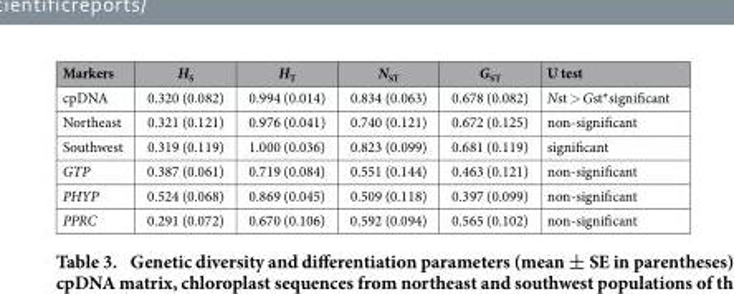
<table><thead><tr><td>Markers</td><td>H<sub>S</sub></td><td>H<sub>T</sub></td><td>N<sub>ST</sub></td><td>G<sub>ST</sub></td><td>U test</td></tr></thead><tbody><tr><td>cpDNA</td><td>0.320 (0.082)</td><td>0.994 (0.014)</td><td>0.834 (0.063)</td><td>0.678 (0.082)</td><td>Nst &gt; Gst*significant</td></tr><tr><td>Northeast</td><td>0.321 (0.121)</td><td>0.976 (0.041)</td><td>0.740 (0.121)</td><td>0.672 (0.125)</td><td>non-significant</td></tr><tr><td>Southwest</td><td>0.319 (0.119)</td><td>1.000 (0.036)</td><td>0.823 (0.099)</td><td>0.681 (0.119)</td><td>significant</td></tr><tr><td>GTP</td><td>0.387 (0.061)</td><td>0.719 (0.084)</td><td>0.551 (0.144)</td><td>0.463 (0.121)</td><td>non-significant</td></tr><tr><td>PHYP</td><td>0.524 (0.068)</td><td>0.869 (0.045)</td><td>0.509 (0.118)</td><td>0.397 (0.099)</td><td>non-significant</td></tr><tr><td>PPRC</td><td>0.291 (0.072)</td><td>0.670 (0.106)</td><td>0.592 (0.094)</td><td>0.565 (0.102)</td><td>non-significant</td></tr></tbody></table>